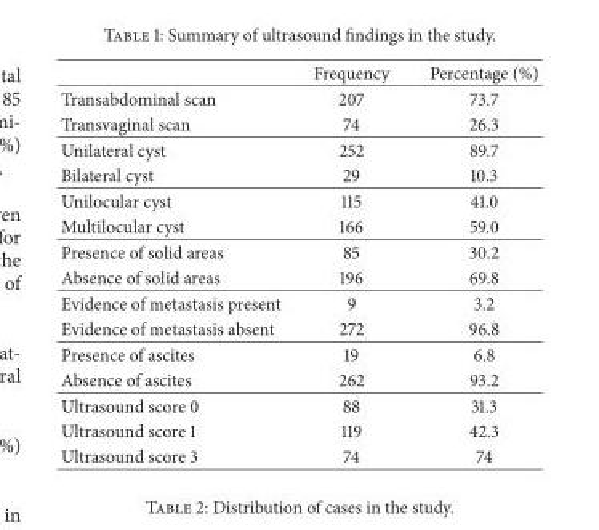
<table><thead><tr><td></td><td>Frequency</td><td>Percentage (%)</td></tr></thead><tbody><tr><td>Transabdominal scan</td><td>207</td><td>73.7</td></tr><tr><td>Transvaginal scan</td><td>74</td><td>26.3</td></tr><tr><td>Unilateral cyst</td><td>252</td><td>89.7</td></tr><tr><td>Bilateral cyst</td><td>29</td><td>10.3</td></tr><tr><td>Unilocular cyst</td><td>115</td><td>41.0</td></tr><tr><td>Multilocular cyst</td><td>166</td><td>59.0</td></tr><tr><td>Presence of solid areas</td><td>85</td><td>30.2</td></tr><tr><td>Absence of solid areas</td><td>196</td><td>69.8</td></tr><tr><td>Evidence of metastasis present</td><td>9</td><td>3.2</td></tr><tr><td>Evidence of metastasis absent</td><td>272</td><td>96.8</td></tr><tr><td>Presence of ascites</td><td>19</td><td>6.8</td></tr><tr><td>Absence of ascites</td><td>262</td><td>93.2</td></tr><tr><td>Ultrasound score 0</td><td>88</td><td>31.3</td></tr><tr><td>Ultrasound score 1</td><td>119</td><td>42.3</td></tr><tr><td>Ultrasound score 3</td><td>74</td><td>74</td></tr></tbody></table>